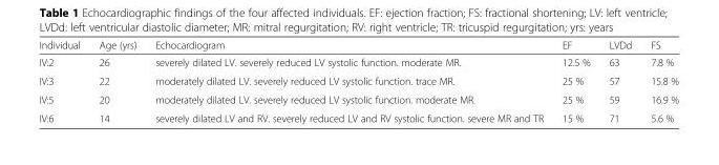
<table><thead><tr><td>Individual</td><td>Age (yrs)</td><td>Echocardiogram</td><td>EF</td><td>LVDd</td><td>FS</td></tr></thead><tbody><tr><td>IV:2</td><td>26</td><td>severely dilated LV. severely reduced LV systolic function. moderate MR.</td><td>12.5 %</td><td>63</td><td>7.8 %</td></tr><tr><td>IV:3</td><td>22</td><td>moderately dilated LV. severely reduced LV systolic function. trace MR.</td><td>25 %</td><td>57</td><td>15.8 %</td></tr><tr><td>IV:5</td><td>20</td><td>moderately dilated LV. severely reduced LV systolic function. moderate MR.</td><td>25 %</td><td>59</td><td>16.9 %</td></tr><tr><td>IV:6</td><td>14</td><td>severely dilated LV and RV. severely reduced LV and RV systolic function. severe MR and TR</td><td>15 %</td><td>71</td><td>5.6 %</td></tr></tbody></table>